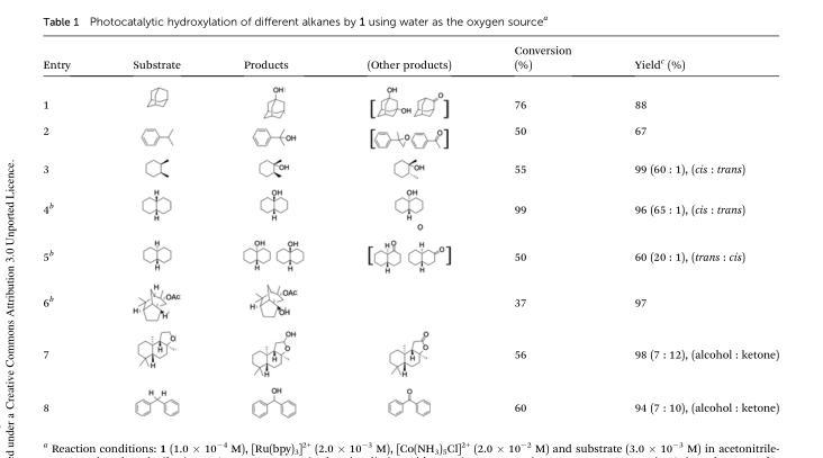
<table><thead><tr><td>Entry</td><td>Substrate</td><td>Products</td><td>(Other products)</td><td>Conversion (%)</td><td>Yield<sup>c</sup> (%)</td></tr></thead><tbody><tr><td>1</td><td></td><td></td><td></td><td>76</td><td>88</td></tr><tr><td>2</td><td></td><td></td><td></td><td>50</td><td>67</td></tr><tr><td>3</td><td></td><td></td><td></td><td>55</td><td>99 (60 : 1), (cis : trans)</td></tr><tr><td>4<sup>b</sup></td><td></td><td></td><td></td><td>99</td><td>96 (65 : 1), (cis : trans)</td></tr><tr><td>5<sup>b</sup></td><td></td><td></td><td></td><td>50</td><td>60 (20 : 1), (trans : cis)</td></tr><tr><td>6<sup>b</sup></td><td></td><td></td><td></td><td>37</td><td>97</td></tr><tr><td>7</td><td></td><td></td><td></td><td>56</td><td>98 (7 : 12), (alcohol : ketone)</td></tr><tr><td>8</td><td></td><td></td><td></td><td>60</td><td>94 (7 : 10), (alcohol : ketone)</td></tr></tbody></table>